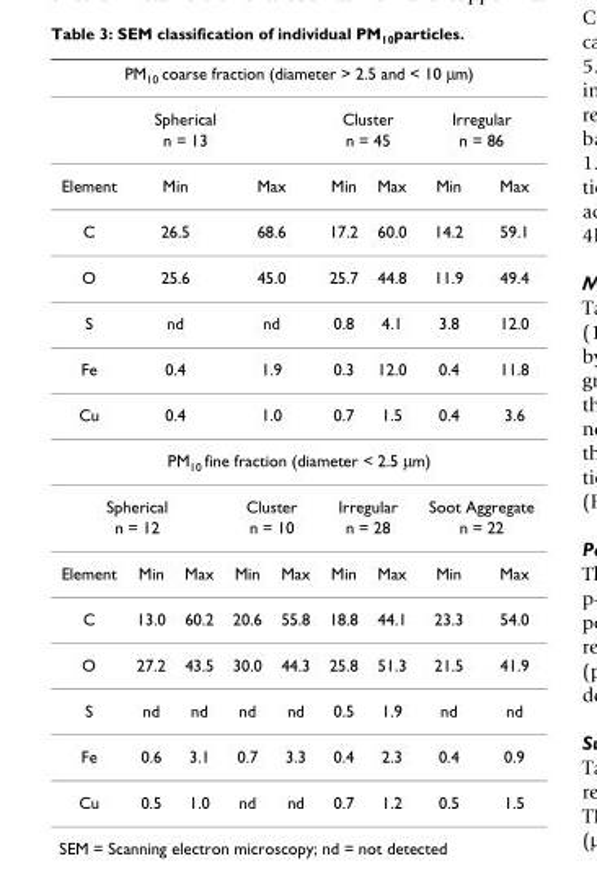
<table><thead><tr><td colspan="9">PM<sub>10</sub> coarse fraction (diameter &gt; 2.5 and &lt; 10 μm)</td></tr></thead><tbody><tr><td colspan="5">Spherical</td><td colspan="2">Cluster</td><td colspan="2">Irregular</td></tr><tr><td colspan="5">n = 13</td><td colspan="2">n = 45</td><td colspan="2">n = 86</td></tr><tr><td>Element</td><td colspan="2">Min</td><td colspan="2">Max</td><td>Min</td><td>Max</td><td>Min</td><td>Max</td></tr><tr><td>C</td><td colspan="2">26.5</td><td colspan="2">68.6</td><td>17.2</td><td>60.0</td><td>14.2</td><td>59.1</td></tr><tr><td>O</td><td colspan="2">25.6</td><td colspan="2">45.0</td><td>25.7</td><td>44.8</td><td>11.9</td><td>49.4</td></tr><tr><td>S</td><td colspan="2">nd</td><td colspan="2">nd</td><td>0.8</td><td>4.1</td><td>3.8</td><td>12.0</td></tr><tr><td>Fe</td><td colspan="2">0.4</td><td colspan="2">1.9</td><td>0.3</td><td>12.0</td><td>0.4</td><td>11.8</td></tr><tr><td>Cu</td><td colspan="2">0.4</td><td colspan="2">1.0</td><td>0.7</td><td>1.5</td><td>0.4</td><td>3.6</td></tr><tr><td colspan="9">PM<sub>10</sub> fine fraction (diameter &lt; 2.5 μm)</td></tr><tr><td colspan="3">Spherical</td><td colspan="2">Cluster</td><td colspan="2">Irregular</td><td colspan="2">Soot Aggregate</td></tr><tr><td colspan="3">n = 12</td><td colspan="2">n = 10</td><td colspan="2">n = 28</td><td colspan="2">n = 22</td></tr><tr><td>Element</td><td>Min</td><td>Max</td><td>Min</td><td>Max</td><td>Min</td><td>Max</td><td>Min</td><td>Max</td></tr><tr><td>C</td><td>13.0</td><td>60.2</td><td>20.6</td><td>55.8</td><td>18.8</td><td>44.1</td><td>23.3</td><td>54.0</td></tr><tr><td>O</td><td>27.2</td><td>43.5</td><td>30.0</td><td>44.3</td><td>25.8</td><td>51.3</td><td>21.5</td><td>41.9</td></tr><tr><td>S</td><td>nd</td><td>nd</td><td>nd</td><td>nd</td><td>0.5</td><td>1.9</td><td>nd</td><td>nd</td></tr><tr><td>Fe</td><td>0.6</td><td>3.1</td><td>0.7</td><td>3.3</td><td>0.4</td><td>2.3</td><td>0.4</td><td>0.9</td></tr><tr><td>Cu</td><td>0.5</td><td>1.0</td><td>nd</td><td>nd</td><td>0.7</td><td>1.2</td><td>0.5</td><td>1.5</td></tr></tbody></table>